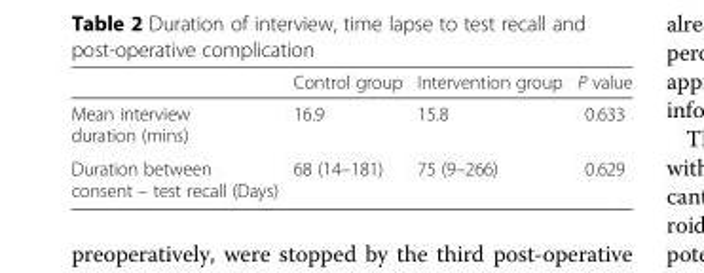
<table><thead><tr><td></td><td>Control group</td><td>Intervention group</td><td>P value</td></tr></thead><tbody><tr><td>Mean interview duration (mins)</td><td>16.9</td><td>15.8</td><td>0.633</td></tr><tr><td>Duration between consent – test recall (Days)</td><td>68 (14–181)</td><td>75 (9–266)</td><td>0.629</td></tr></tbody></table>